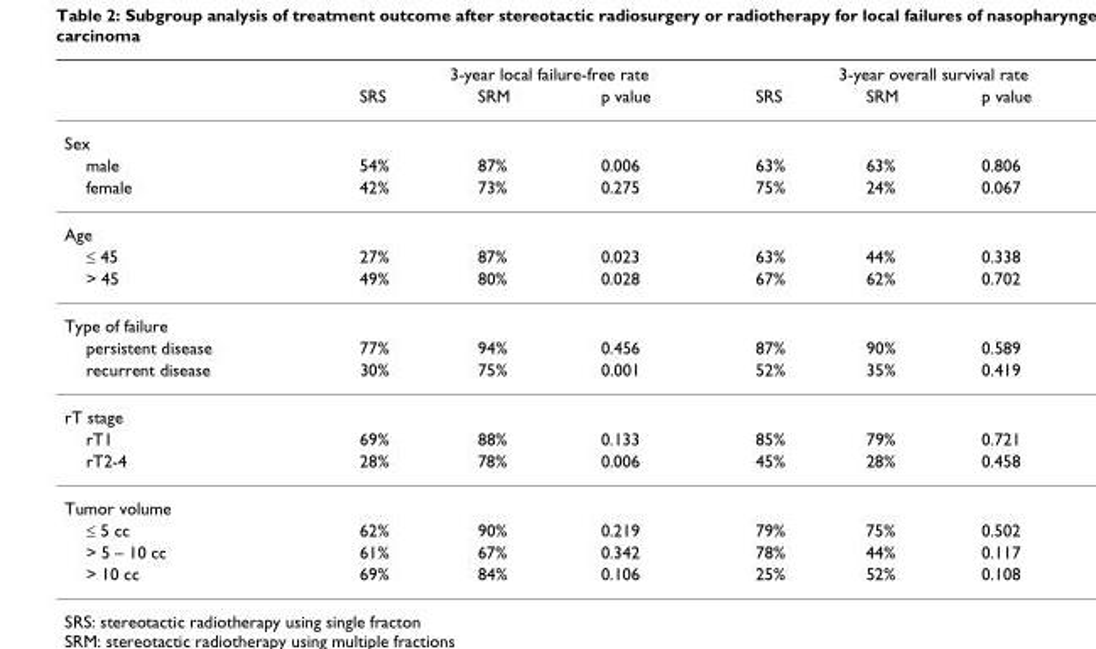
<table><thead><tr><td rowspan="2"></td><td colspan="3">3-year local failure-free rate</td><td colspan="3">3-year overall survival rate</td></tr><tr><td>SRS</td><td>SRM</td><td>p value</td><td>SRS</td><td>SRM</td><td>p value</td></tr></thead><tbody><tr><td colspan="7">Sex</td></tr><tr><td>male</td><td>54%</td><td>87%</td><td>0.006</td><td>63%</td><td>63%</td><td>0.806</td></tr><tr><td>female</td><td>42%</td><td>73%</td><td>0.275</td><td>75%</td><td>24%</td><td>0.067</td></tr><tr><td colspan="7">Age</td></tr><tr><td>≤ 45</td><td>27%</td><td>87%</td><td>0.023</td><td>63%</td><td>44%</td><td>0.338</td></tr><tr><td>&gt; 45</td><td>49%</td><td>80%</td><td>0.028</td><td>67%</td><td>62%</td><td>0.702</td></tr><tr><td colspan="7">Type of failure</td></tr><tr><td>persistent disease</td><td>77%</td><td>94%</td><td>0.456</td><td>87%</td><td>90%</td><td>0.589</td></tr><tr><td>recurrent disease</td><td>30%</td><td>75%</td><td>0.001</td><td>52%</td><td>35%</td><td>0.419</td></tr><tr><td colspan="7">rT stage</td></tr><tr><td>rT1</td><td>69%</td><td>88%</td><td>0.133</td><td>85%</td><td>79%</td><td>0.721</td></tr><tr><td>rT2-4</td><td>28%</td><td>78%</td><td>0.006</td><td>45%</td><td>28%</td><td>0.458</td></tr><tr><td colspan="7">Tumor volume</td></tr><tr><td>≤ 5 cc</td><td>62%</td><td>90%</td><td>0.219</td><td>79%</td><td>75%</td><td>0.502</td></tr><tr><td>&gt; 5 – 10 cc</td><td>61%</td><td>67%</td><td>0.342</td><td>78%</td><td>44%</td><td>0.117</td></tr><tr><td>&gt; 10 cc</td><td>69%</td><td>84%</td><td>0.106</td><td>25%</td><td>52%</td><td>0.108</td></tr></tbody></table>